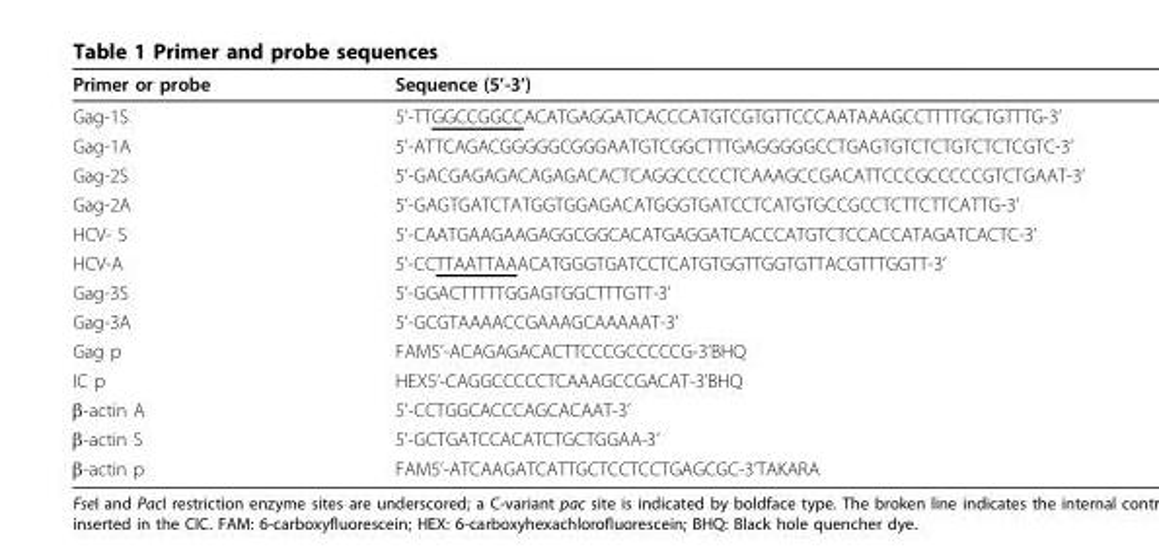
<table><thead><tr><td>Primer or probe</td><td>Sequence (5’-3’)</td></tr></thead><tbody><tr><td>Gag-1S</td><td>5’-TTGGCCGGCCACATGAGGATCACCCATGTCGTGTTCCCAATAAAGCCTTTTGCTGTTTG-3’</td></tr><tr><td>Gag-1A</td><td>5’-ATTCAGACGGGGGCGGGAATGTCGGCTTTGAGGGGGCCTGAGTGTCTCTGTCTCTCGTC-3’</td></tr><tr><td>Gag-2S</td><td>5’-GACGAGAGACAGAGACACTCAGGCCCCCTCAAAGCCGACATTCCCGCCCCCGTCTGAAT-3’</td></tr><tr><td>Gag-2A</td><td>5’-GAGTGATCTATGGTGGAGACATGGGTGATCCTCATGTGCCGCCTCTTCTTCATTG-3’</td></tr><tr><td>HCV- S</td><td>5’-CAATGAAGAAGAGGCGGCACATGAGGATCACCCATGTCTCCACCATAGATCACTC-3’</td></tr><tr><td>HCV-A</td><td>5’-CCTTAATTAAACATGGGTGATCCTCATGTGGTTGGTGTTACGTTTGGTT-3’</td></tr><tr><td>Gag-3S</td><td>5’-GGACTTTTTGGAGTGGCTTTGTT-3’</td></tr><tr><td>Gag-3A</td><td>5’-GCGTAAAACCGAAAGCAAAAAT-3’</td></tr><tr><td>Gag p</td><td>FAM5’-ACAGAGACACTTCCCGCCCCCG-3’BHQ</td></tr><tr><td>IC p</td><td>HEX5’-CAGGCCCCCTCAAAGCCGACAT-3’BHQ</td></tr><tr><td>β-actin A</td><td>5’-CCTGGCACCCAGCACAAT-3’</td></tr><tr><td>β-actin S</td><td>5’-GCTGATCCACATCTGCTGGAA-3’</td></tr><tr><td>β-actin p</td><td>FAM5’-ATCAAGATCATTGCTCCTCCTGAGCGC-3’TAKARA</td></tr></tbody></table>